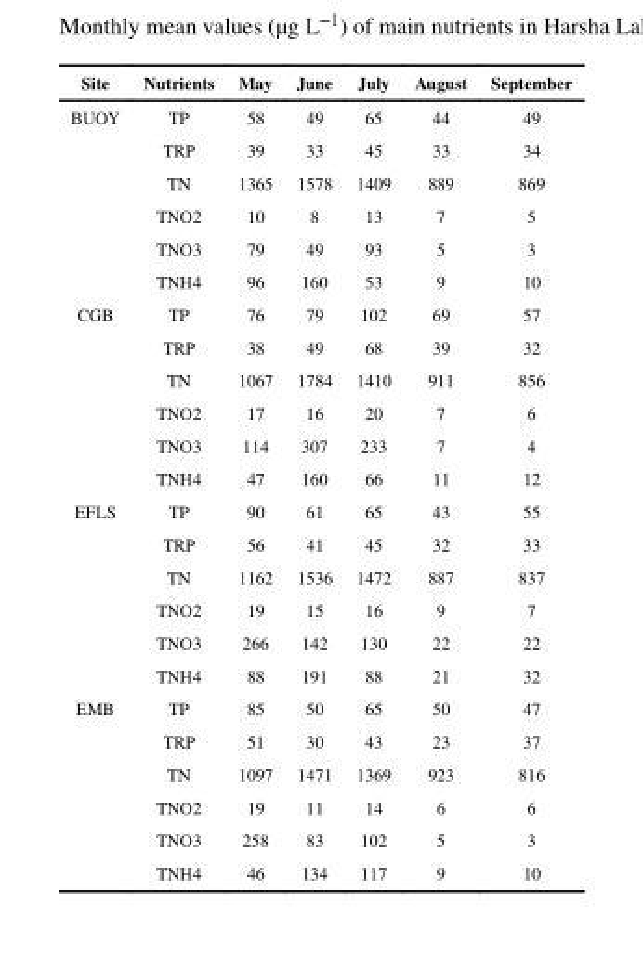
<table><thead><tr><td>Site</td><td>Nutrients</td><td>May</td><td>June</td><td>July</td><td>August</td><td>September</td></tr></thead><tbody><tr><td rowspan="6">BUOY</td><td>TP</td><td>58</td><td>49</td><td>65</td><td>44</td><td>49</td></tr><tr><td>TRP</td><td>39</td><td>33</td><td>45</td><td>33</td><td>34</td></tr><tr><td>TN</td><td>1365</td><td>1578</td><td>1409</td><td>889</td><td>869</td></tr><tr><td>TNO2</td><td>10</td><td>8</td><td>13</td><td>7</td><td>5</td></tr><tr><td>TNO3</td><td>79</td><td>49</td><td>93</td><td>5</td><td>3</td></tr><tr><td>TNH4</td><td>96</td><td>160</td><td>53</td><td>9</td><td>10</td></tr><tr><td rowspan="6">CGB</td><td>TP</td><td>76</td><td>79</td><td>102</td><td>69</td><td>57</td></tr><tr><td>TRP</td><td>38</td><td>49</td><td>68</td><td>39</td><td>32</td></tr><tr><td>TN</td><td>1067</td><td>1784</td><td>1410</td><td>911</td><td>856</td></tr><tr><td>TNO2</td><td>17</td><td>16</td><td>20</td><td>7</td><td>6</td></tr><tr><td>TNO3</td><td>114</td><td>307</td><td>233</td><td>7</td><td>4</td></tr><tr><td>TNH4</td><td>47</td><td>160</td><td>66</td><td>11</td><td>12</td></tr><tr><td rowspan="6">EFLS</td><td>TP</td><td>90</td><td>61</td><td>65</td><td>43</td><td>55</td></tr><tr><td>TRP</td><td>56</td><td>41</td><td>45</td><td>32</td><td>33</td></tr><tr><td>TN</td><td>1162</td><td>1536</td><td>1472</td><td>887</td><td>837</td></tr><tr><td>TNO2</td><td>19</td><td>15</td><td>16</td><td>9</td><td>7</td></tr><tr><td>TNO3</td><td>266</td><td>142</td><td>130</td><td>22</td><td>22</td></tr><tr><td>TNH4</td><td>88</td><td>191</td><td>88</td><td>21</td><td>32</td></tr><tr><td rowspan="6">EMB</td><td>TP</td><td>85</td><td>50</td><td>65</td><td>50</td><td>47</td></tr><tr><td>TRP</td><td>51</td><td>30</td><td>43</td><td>23</td><td>37</td></tr><tr><td>TN</td><td>1097</td><td>1471</td><td>1369</td><td>923</td><td>816</td></tr><tr><td>TNO2</td><td>19</td><td>11</td><td>14</td><td>6</td><td>6</td></tr><tr><td>TNO3</td><td>258</td><td>83</td><td>102</td><td>5</td><td>3</td></tr><tr><td>TNH4</td><td>46</td><td>134</td><td>117</td><td>9</td><td>10</td></tr></tbody></table>